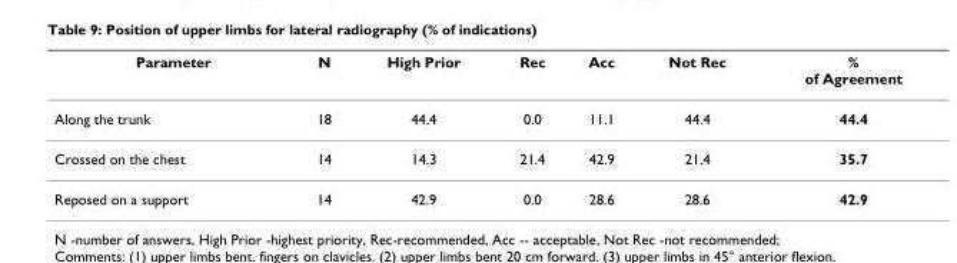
<table><thead><tr><td>Parameter</td><td>N</td><td>High Prior</td><td>Rec</td><td>Acc</td><td>Not Rec</td><td>% of Agreement</td></tr></thead><tbody><tr><td>Along the trunk</td><td>18</td><td>44.4</td><td>0.0</td><td>11.1</td><td>44.4</td><td>44.4</td></tr><tr><td>Crossed on the chest</td><td>14</td><td>14.3</td><td>21.4</td><td>42.9</td><td>21.4</td><td>35.7</td></tr><tr><td>Reposed on a support</td><td>14</td><td>42.9</td><td>0.0</td><td>28.6</td><td>28.6</td><td>42.9</td></tr></tbody></table>